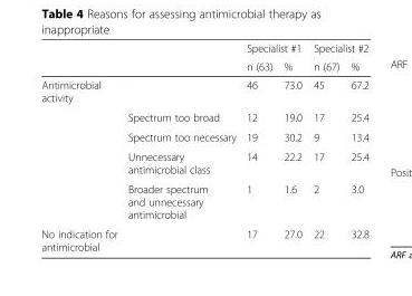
<table><thead><tr><td rowspan="2"></td><td rowspan="2"></td><td colspan="2">Specialist #1</td><td colspan="2">Specialist #2</td></tr><tr><td>n (63)</td><td>%</td><td>n (67)</td><td>%</td></tr></thead><tbody><tr><td rowspan="5">Antimicrobial activity</td><td></td><td>46</td><td>73.0</td><td>45</td><td>67.2</td></tr><tr><td>Spectrum too broad</td><td>12</td><td>19.0</td><td>17</td><td>25.4</td></tr><tr><td>Spectrum too necessary</td><td>19</td><td>30.2</td><td>9</td><td>13.4</td></tr><tr><td>Unnecessary antimicrobial class</td><td>14</td><td>22.2</td><td>17</td><td>25.4</td></tr><tr><td>Broader spectrum and unnecessary antimicrobial</td><td>1</td><td>1.6</td><td>2</td><td>3.0</td></tr><tr><td>No indication for antimicrobial</td><td></td><td>17</td><td>27.0</td><td>22</td><td>32.8</td></tr></tbody></table>